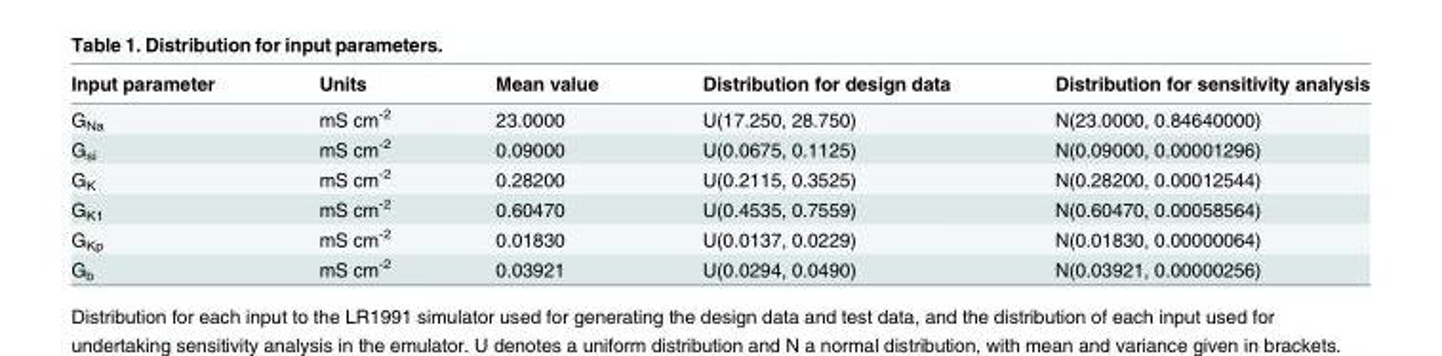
<table><thead><tr><td>Input parameter</td><td>Units</td><td>Mean value</td><td>Distribution for design data</td><td>Distribution for sensitivity analysis</td></tr></thead><tbody><tr><td>G<sub>Na</sub></td><td>mS cm<sup>-2</sup></td><td>23.0000</td><td>U(17.250, 28.750)</td><td>N(23.0000, 0.84640000)</td></tr><tr><td>G<sub>si</sub></td><td>mS cm<sup>-2</sup></td><td>0.09000</td><td>U(0.0675, 0.1125)</td><td>N(0.09000, 0.00001296)</td></tr><tr><td>G<sub>K</sub></td><td>mS cm<sup>-2</sup></td><td>0.28200</td><td>U(0.2115, 0.3525)</td><td>N(0.28200, 0.00012544)</td></tr><tr><td>G<sub>K1</sub></td><td>mS cm<sup>-2</sup></td><td>0.60470</td><td>U(0.4535, 0.7559)</td><td>N(0.60470, 0.00058564)</td></tr><tr><td>G<sub>Kp</sub></td><td>mS cm<sup>-2</sup></td><td>0.01830</td><td>U(0.0137, 0.0229)</td><td>N(0.01830, 0.00000064)</td></tr><tr><td>G<sub>b</sub></td><td>mS cm<sup>-2</sup></td><td>0.03921</td><td>U(0.0294, 0.0490)</td><td>N(0.03921, 0.00000256)</td></tr></tbody></table>